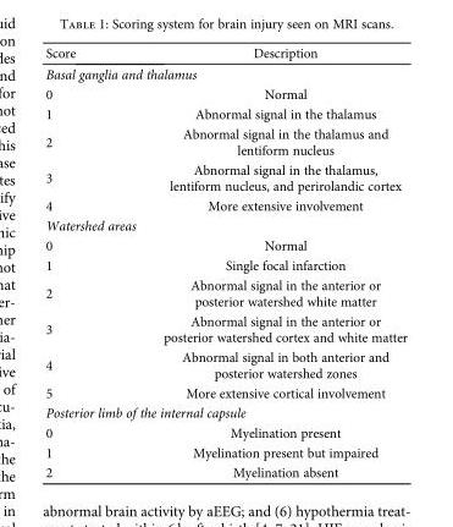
<table><thead><tr><td>Score</td><td>Description</td></tr></thead><tbody><tr><td colspan="2">Basal ganglia and thalamus</td></tr><tr><td>0</td><td>Normal</td></tr><tr><td>1</td><td>Abnormal signal in the thalamus</td></tr><tr><td>2</td><td>Abnormal signal in the thalamus and lentiform nucleus</td></tr><tr><td>3</td><td>Abnormal signal in the thalamus, lentiform nucleus, and perirolandic cortex</td></tr><tr><td>4</td><td>More extensive involvement</td></tr><tr><td colspan="2">Watershed areas</td></tr><tr><td>0</td><td>Normal</td></tr><tr><td>1</td><td>Single focal infarction</td></tr><tr><td>2</td><td>Abnormal signal in the anterior or posterior watershed white matter</td></tr><tr><td>3</td><td>Abnormal signal in the anterior or posterior watershed cortex and white matter</td></tr><tr><td>4</td><td>Abnormal signal in both anterior and posterior watershed zones</td></tr><tr><td>5</td><td>More extensive cortical involvement</td></tr><tr><td colspan="2">Posterior limb of the internal capsule</td></tr><tr><td>0</td><td>Myelination present</td></tr><tr><td>1</td><td>Myelination present but impaired</td></tr><tr><td>2</td><td>Myelination absent</td></tr></tbody></table>